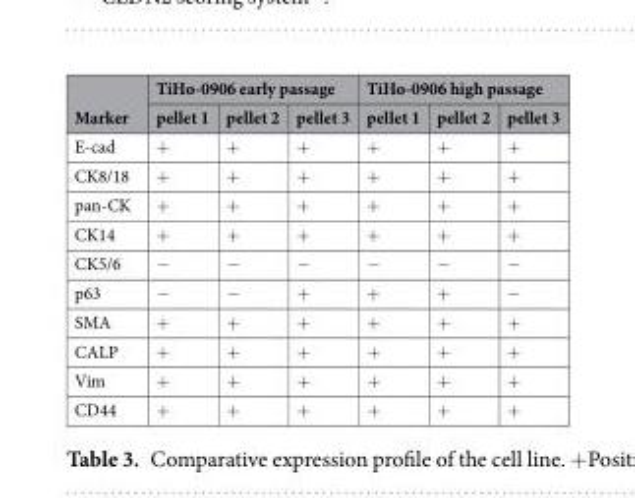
<table><thead><tr><td rowspan="2">Marker</td><td colspan="3">TiHo-0906 early passage</td><td colspan="3">TiHo-0906 high passage</td></tr><tr><td>pellet 1</td><td>pellet 2</td><td>pellet 3</td><td>pellet 1</td><td>pellet 2</td><td>pellet 3</td></tr></thead><tbody><tr><td>E-cad</td><td>+</td><td>+</td><td>+</td><td>+</td><td>+</td><td>+</td></tr><tr><td>CK8/18</td><td>+</td><td>+</td><td>+</td><td>+</td><td>+</td><td>+</td></tr><tr><td>pan-CK</td><td>+</td><td>+</td><td>+</td><td>+</td><td>+</td><td>+</td></tr><tr><td>CK14</td><td>+</td><td>+</td><td>+</td><td>+</td><td>+</td><td>+</td></tr><tr><td>CK5/6</td><td>−</td><td>−</td><td>−</td><td>−</td><td>−</td><td>−</td></tr><tr><td>p63</td><td>−</td><td>−</td><td>+</td><td>+</td><td>+</td><td>−</td></tr><tr><td>SMA</td><td>+</td><td>+</td><td>+</td><td>+</td><td>+</td><td>+</td></tr><tr><td>CALP</td><td>+</td><td>+</td><td>+</td><td>+</td><td>+</td><td>+</td></tr><tr><td>Vim</td><td>+</td><td>+</td><td>+</td><td>+</td><td>+</td><td>+</td></tr><tr><td>CD44</td><td>+</td><td>+</td><td>+</td><td>+</td><td>+</td><td>+</td></tr></tbody></table>